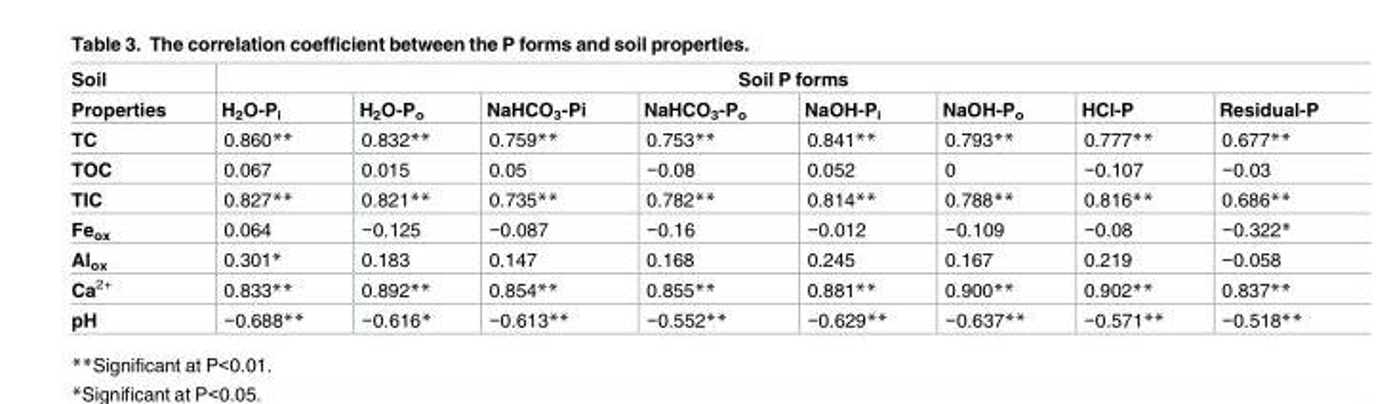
<table><thead><tr><td rowspan="2">Soil Properties</td><td colspan="8">Soil P forms</td></tr><tr><td>H<sub>2</sub>O-P<sub>i</sub></td><td>H<sub>2</sub>O-P<sub>o</sub></td><td>NaHCO<sub>3</sub>-Pi</td><td>NaHCO<sub>3</sub>-P<sub>o</sub></td><td>NaOH-P<sub>i</sub></td><td>NaOH-P<sub>o</sub></td><td>HCl-P</td><td>Residual-P</td></tr></thead><tbody><tr><td>TC</td><td>0.860**</td><td>0.832**</td><td>0.759**</td><td>0.753**</td><td>0.841**</td><td>0.793**</td><td>0.777**</td><td>0.677**</td></tr><tr><td>TOC</td><td>0.067</td><td>0.015</td><td>0.05</td><td>−0.08</td><td>0.052</td><td>0</td><td>−0.107</td><td>−0.03</td></tr><tr><td>TIC</td><td>0.827**</td><td>0.821**</td><td>0.735**</td><td>0.782**</td><td>0.814**</td><td>0.788**</td><td>0.816**</td><td>0.686**</td></tr><tr><td>Fe<sub>ox</sub></td><td>0.064</td><td>−0.125</td><td>−0.087</td><td>−0.16</td><td>−0.012</td><td>−0.109</td><td>−0.08</td><td>−0.322*</td></tr><tr><td>Al<sub>ox</sub></td><td>0.301*</td><td>0.183</td><td>0.147</td><td>0.168</td><td>0.245</td><td>0.167</td><td>0.219</td><td>−0.058</td></tr><tr><td>Ca<sup>2+</sup></td><td>0.833**</td><td>0.892**</td><td>0.854**</td><td>0.855**</td><td>0.881**</td><td>0.900**</td><td>0.902**</td><td>0.837**</td></tr><tr><td>pH</td><td>−0.688**</td><td>−0.616*</td><td>−0.613**</td><td>−0.552**</td><td>−0.629**</td><td>−0.637**</td><td>−0.571**</td><td>−0.518**</td></tr></tbody></table>